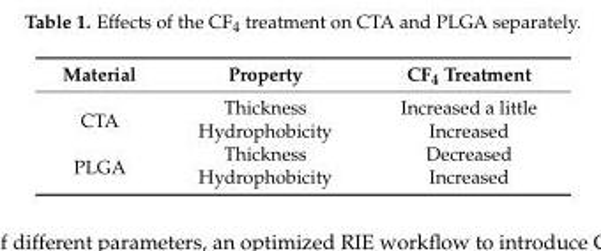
<table><thead><tr><td>Material</td><td>Property</td><td>CF<sub>4</sub> Treatment</td></tr></thead><tbody><tr><td rowspan="2">CTA</td><td>Thickness</td><td>Increased a little</td></tr><tr><td>Hydrophobicity</td><td>Increased</td></tr><tr><td rowspan="2">PLGA</td><td>Thickness</td><td>Decreased</td></tr><tr><td>Hydrophobicity</td><td>Increased</td></tr></tbody></table>